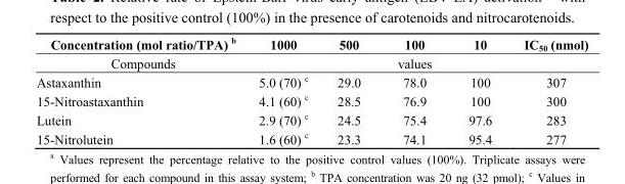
<table><thead><tr><td>Concentration (mol ratio/TPA) <sup>b</sup></td><td>1000</td><td>500</td><td>100</td><td>10</td><td>IC<sub>50</sub> (nmol)</td></tr></thead><tbody><tr><td>Compounds</td><td></td><td></td><td>values</td><td></td><td></td></tr><tr><td>Astaxanthin</td><td>5.0 (70) <sup>c</sup></td><td>29.0</td><td>78.0</td><td>100</td><td>307</td></tr><tr><td>15-Nitroastaxanthin</td><td>4.1 (60) <sup>c</sup></td><td>28.5</td><td>76.9</td><td>100</td><td>300</td></tr><tr><td>Lutein</td><td>2.9 (70) <sup>c</sup></td><td>24.5</td><td>75.4</td><td>97.6</td><td>283</td></tr><tr><td>15-Nitrolutein</td><td>1.6 (60) <sup>c</sup></td><td>23.3</td><td>74.1</td><td>95.4</td><td>277</td></tr></tbody></table>